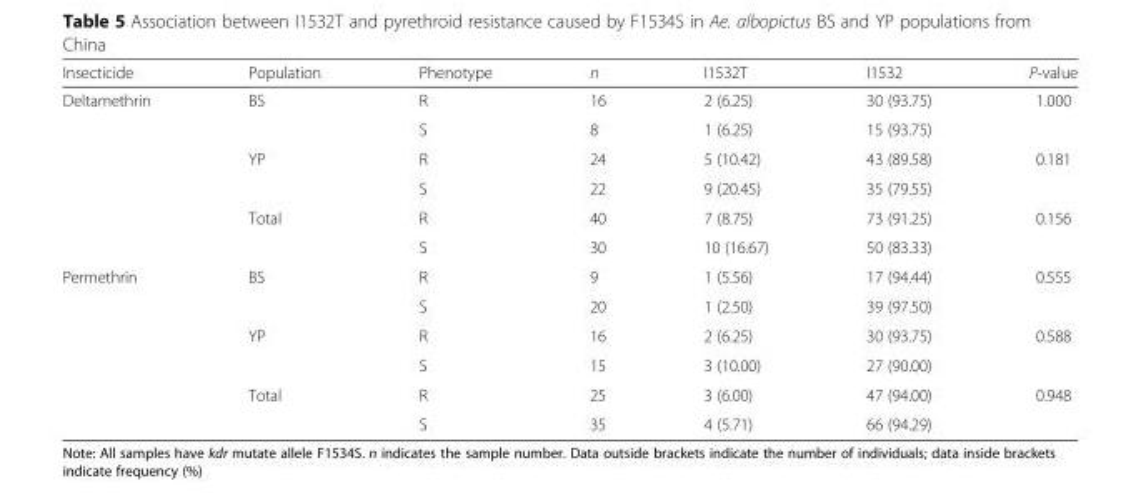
<table><thead><tr><td>Insecticide</td><td>Population</td><td>Phenotype</td><td>n</td><td>I1532T</td><td>I1532</td><td>P-value</td></tr></thead><tbody><tr><td rowspan="6">Deltamethrin</td><td rowspan="2">BS</td><td>R</td><td>16</td><td>2 (6.25)</td><td>30 (93.75)</td><td rowspan="2">1.000</td></tr><tr><td>S</td><td>8</td><td>1 (6.25)</td><td>15 (93.75)</td></tr><tr><td rowspan="2">YP</td><td>R</td><td>24</td><td>5 (10.42)</td><td>43 (89.58)</td><td rowspan="2">0.181</td></tr><tr><td>S</td><td>22</td><td>9 (20.45)</td><td>35 (79.55)</td></tr><tr><td rowspan="2">Total</td><td>R</td><td>40</td><td>7 (8.75)</td><td>73 (91.25)</td><td rowspan="2">0.156</td></tr><tr><td>S</td><td>30</td><td>10 (16.67)</td><td>50 (83.33)</td></tr><tr><td rowspan="6">Permethrin</td><td rowspan="2">BS</td><td>R</td><td>9</td><td>1 (5.56)</td><td>17 (94.44)</td><td rowspan="2">0.555</td></tr><tr><td>S</td><td>20</td><td>1 (2.50)</td><td>39 (97.50)</td></tr><tr><td rowspan="2">YP</td><td>R</td><td>16</td><td>2 (6.25)</td><td>30 (93.75)</td><td rowspan="2">0.588</td></tr><tr><td>S</td><td>15</td><td>3 (10.00)</td><td>27 (90.00)</td></tr><tr><td rowspan="2">Total</td><td>R</td><td>25</td><td>3 (6.00)</td><td>47 (94.00)</td><td rowspan="2">0.948</td></tr><tr><td>S</td><td>35</td><td>4 (5.71)</td><td>66 (94.29)</td></tr></tbody></table>